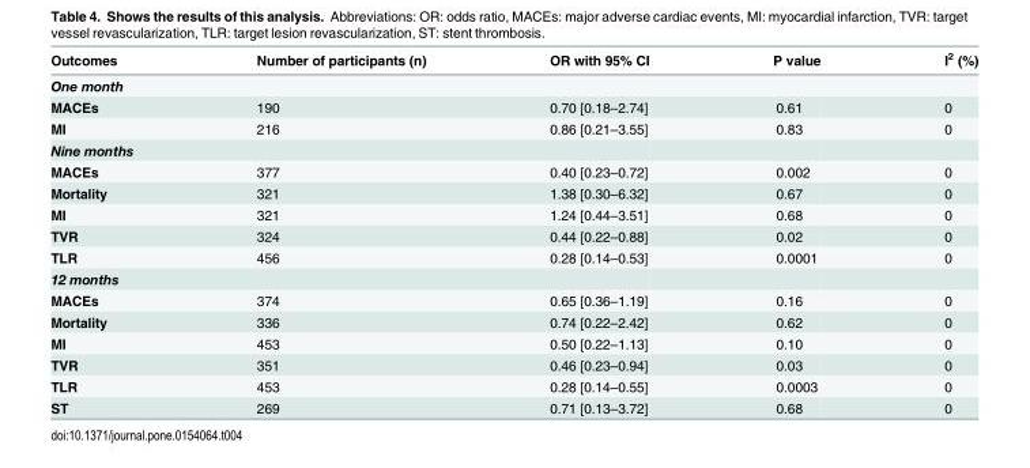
<table><thead><tr><td>Outcomes</td><td>Number of participants (n)</td><td>OR with 95% CI</td><td>P value</td><td>I<sup>2</sup> (%)</td></tr></thead><tbody><tr><td colspan="5">One month</td></tr><tr><td>MACEs</td><td>190</td><td>0.70 [0.18–2.74]</td><td>0.61</td><td>0</td></tr><tr><td>MI</td><td>216</td><td>0.86 [0.21–3.55]</td><td>0.83</td><td>0</td></tr><tr><td colspan="5">Nine months</td></tr><tr><td>MACEs</td><td>377</td><td>0.40 [0.23–0.72]</td><td>0.002</td><td>0</td></tr><tr><td>Mortality</td><td>321</td><td>1.38 [0.30–6.32]</td><td>0.67</td><td>0</td></tr><tr><td>MI</td><td>321</td><td>1.24 [0.44–3.51]</td><td>0.68</td><td>0</td></tr><tr><td>TVR</td><td>324</td><td>0.44 [0.22–0.88]</td><td>0.02</td><td>0</td></tr><tr><td>TLR</td><td>456</td><td>0.28 [0.14–0.53]</td><td>0.0001</td><td>0</td></tr><tr><td colspan="5">12 months</td></tr><tr><td>MACEs</td><td>374</td><td>0.65 [0.36–1.19]</td><td>0.16</td><td>0</td></tr><tr><td>Mortality</td><td>336</td><td>0.74 [0.22–2.42]</td><td>0.62</td><td>0</td></tr><tr><td>MI</td><td>453</td><td>0.50 [0.22–1.13]</td><td>0.10</td><td>0</td></tr><tr><td>TVR</td><td>351</td><td>0.46 [0.23–0.94]</td><td>0.03</td><td>0</td></tr><tr><td>TLR</td><td>453</td><td>0.28 [0.14–0.55]</td><td>0.0003</td><td>0</td></tr><tr><td>ST</td><td>269</td><td>0.71 [0.13–3.72]</td><td>0.68</td><td>0</td></tr></tbody></table>